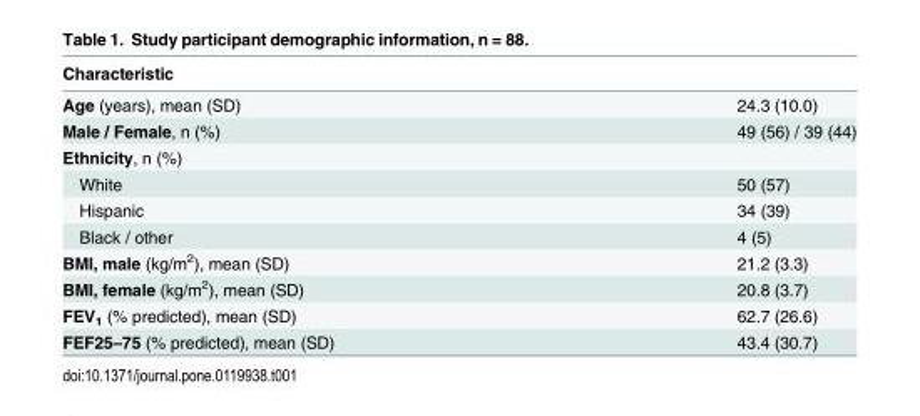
<table><thead><tr><td>Characteristic</td><td></td></tr></thead><tbody><tr><td>Age (years), mean (SD)</td><td>24.3 (10.0)</td></tr><tr><td>Male / Female, n (%)</td><td>49 (56) / 39 (44)</td></tr><tr><td colspan="2">Ethnicity, n (%)</td></tr><tr><td>White</td><td>50 (57)</td></tr><tr><td>Hispanic</td><td>34 (39)</td></tr><tr><td>Black / other</td><td>4 (5)</td></tr><tr><td>BMI, male (kg/m<sup>2</sup>), mean (SD)</td><td>21.2 (3.3)</td></tr><tr><td>BMI, female (kg/m<sup>2</sup>), mean (SD)</td><td>20.8 (3.7)</td></tr><tr><td>FEV<sub>1</sub> (% predicted), mean (SD)</td><td>62.7 (26.6)</td></tr><tr><td>FEF25–75 (% predicted), mean (SD)</td><td>43.4 (30.7)</td></tr></tbody></table>